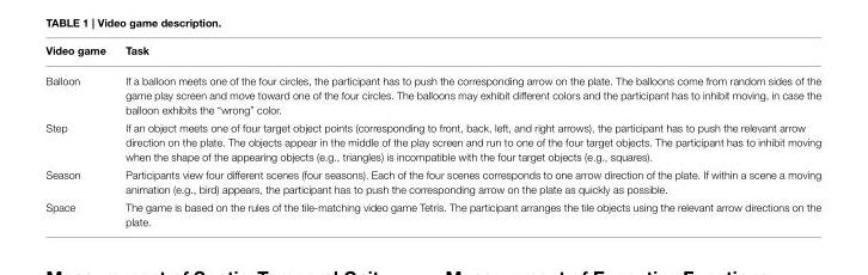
<table><thead><tr><td>Video game</td><td>Task</td></tr></thead><tbody><tr><td>Balloon</td><td>If a balloon meets one of the four circles, the participant has to push the corresponding arrow on the plate. The balloons come from random sides of the game play screen and move toward one of the four circles. The balloons may exhibit different colors and the participant has to inhibit moving, in case the balloon exhibits the “wrong” color.</td></tr><tr><td>Step</td><td>If an object meets one of four target object points (corresponding to front, back, left, and right arrows), the participant has to push the relevant arrow direction on the plate. The objects appear in the middle of the play screen and run to one of the four target objects. The participant has to inhibit moving when the shape of the appearing objects (e.g., triangles) is incompatible with the four target objects (e.g., squares).</td></tr><tr><td>Season</td><td>Participants view four different scenes (four seasons). Each of the four scenes corresponds to one arrow direction of the plate. If within a scene a moving animation (e.g., bird) appears, the participant has to push the corresponding arrow on the plate as quickly as possible.</td></tr><tr><td>Space</td><td>The game is based on the rules of the tile-matching video game Tetris. The participant arranges the tile objects using the relevant arrow directions on the plate.</td></tr></tbody></table>